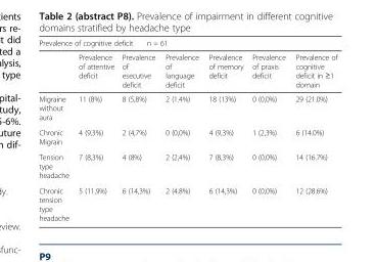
<table><thead><tr><td colspan="7">Prevalence of cognitive deficit n = 61</td></tr><tr><td></td><td>Prevalence of attentive deficit</td><td>Prevalence of esecutive deficit</td><td>Prevalence of language deficit</td><td>Prevalence of memory deficit</td><td>Prevalence of praxis deficit</td><td>Prevalence of cognitive deficit in ≥1 domain</td></tr></thead><tbody><tr><td>Migraine without aura</td><td>11 (8%)</td><td>8 (5,8%)</td><td>2 (1.4%)</td><td>18 (13%)</td><td>0 (0,0%)</td><td>29 (21.0%)</td></tr><tr><td>Chronic Migrain</td><td>4 (9,3%)</td><td>2 (4,7%)</td><td>0 (0,0%)</td><td>4 (9,3%)</td><td>1 (2,3%)</td><td>6 (14.0%)</td></tr><tr><td>Tension type headache</td><td>7 (8,3%)</td><td>4 (8%)</td><td>2 (2,4%)</td><td>7 (8,3%)</td><td>0 (0,0%)</td><td>14 (16.7%)</td></tr><tr><td>Chronic tension type headache</td><td>5 (11,9%)</td><td>6 (14,3%)</td><td>2 (4.8%)</td><td>6 (14,3%)</td><td>0 (0,0%)</td><td>12 (28.6%)</td></tr></tbody></table>